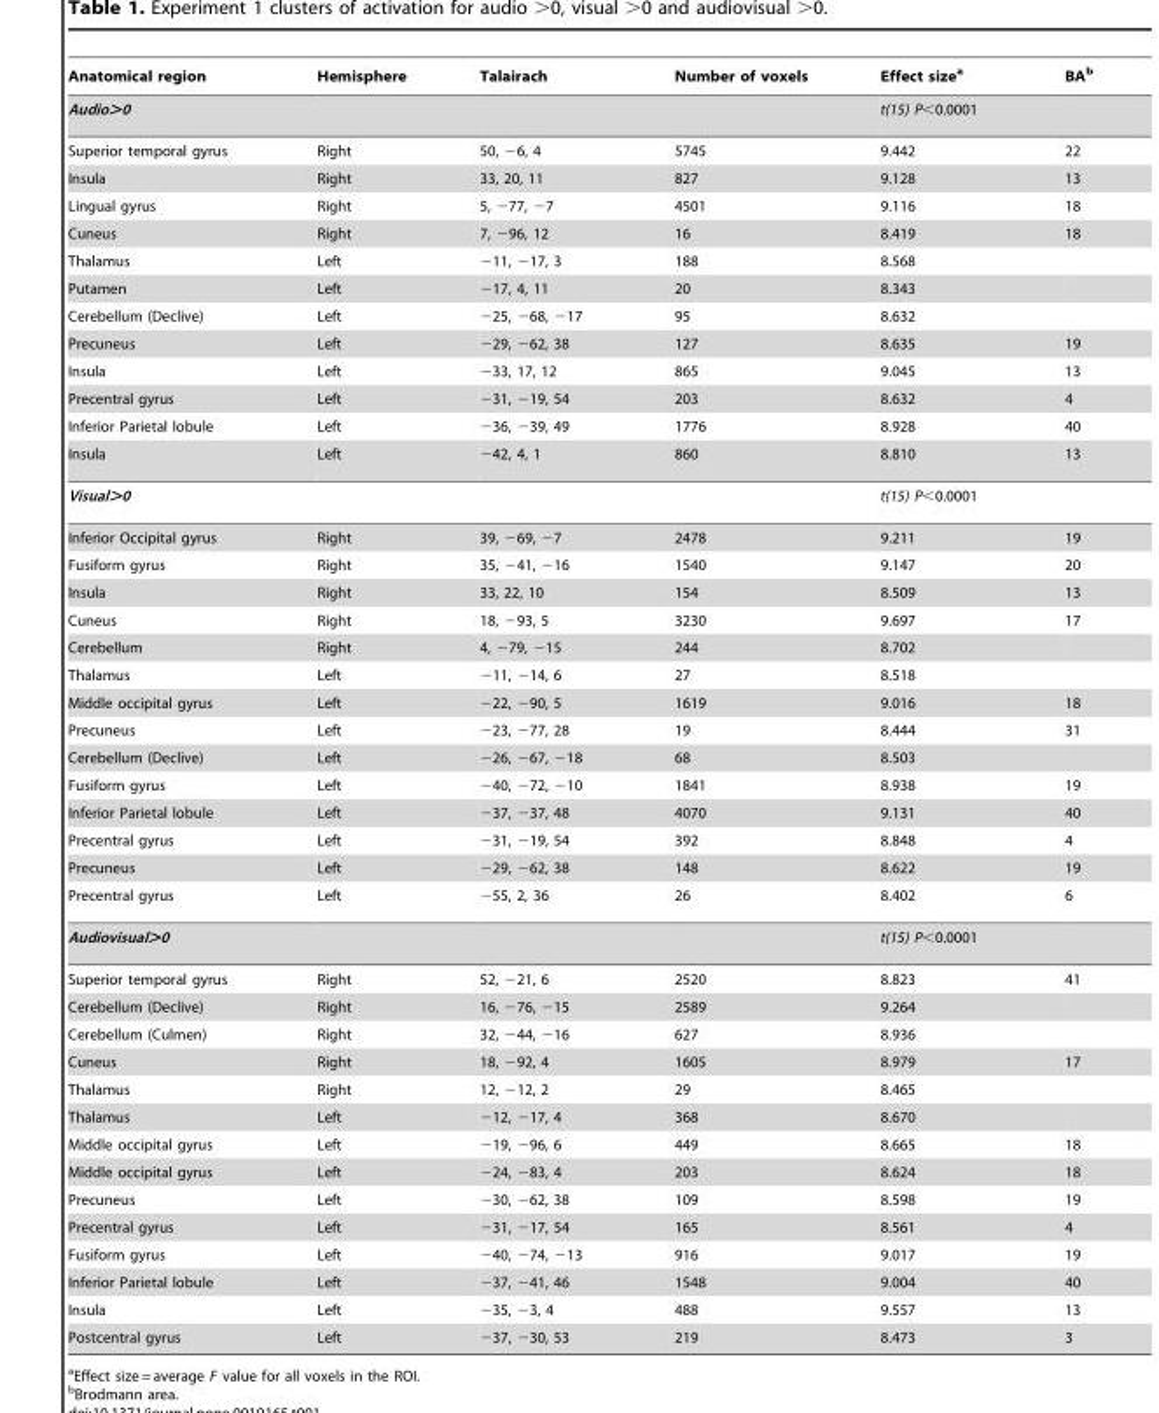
<table><thead><tr><td>Anatomical region</td><td>Hemisphere</td><td>Talairach</td><td>Number of voxels</td><td>Effect size<sup>a</sup></td><td>BA<sup>b</sup></td></tr></thead><tbody><tr><td colspan="4">Audio&gt;0</td><td colspan="2">t(15) P&lt;0.0001</td></tr><tr><td>Superior temporal gyrus</td><td>Right</td><td>50, −6, 4</td><td>5745</td><td>9.442</td><td>22</td></tr><tr><td>Insula</td><td>Right</td><td>33, 20, 11</td><td>827</td><td>9.128</td><td>13</td></tr><tr><td>Lingual gyrus</td><td>Right</td><td>5, −77, −7</td><td>4501</td><td>9.116</td><td>18</td></tr><tr><td>Cuneus</td><td>Right</td><td>7, −96, 12</td><td>16</td><td>8.419</td><td>18</td></tr><tr><td>Thalamus</td><td>Left</td><td>−11, −17, 3</td><td>188</td><td>8.568</td><td></td></tr><tr><td>Putamen</td><td>Left</td><td>−17, 4, 11</td><td>20</td><td>8.343</td><td></td></tr><tr><td>Cerebellum (Declive)</td><td>Left</td><td>−25, −68, −17</td><td>95</td><td>8.632</td><td></td></tr><tr><td>Precuneus</td><td>Left</td><td>−29, −62, 38</td><td>127</td><td>8.635</td><td>19</td></tr><tr><td>Insula</td><td>Left</td><td>−33, 17, 12</td><td>865</td><td>9.045</td><td>13</td></tr><tr><td>Precentral gyrus</td><td>Left</td><td>−31, −19, 54</td><td>203</td><td>8.632</td><td>4</td></tr><tr><td>Inferior Parietal lobule</td><td>Left</td><td>−36, −39, 49</td><td>1776</td><td>8.928</td><td>40</td></tr><tr><td>Insula</td><td>Left</td><td>−42, 4, 1</td><td>860</td><td>8.810</td><td>13</td></tr><tr><td colspan="4">Visual&gt;0</td><td colspan="2">t(15) P&lt;0.0001</td></tr><tr><td>Inferior Occipital gyrus</td><td>Right</td><td>39, −69, −7</td><td>2478</td><td>9.211</td><td>19</td></tr><tr><td>Fusiform gyrus</td><td>Right</td><td>35, −41, −16</td><td>1540</td><td>9.147</td><td>20</td></tr><tr><td>Insula</td><td>Right</td><td>33, 22, 10</td><td>154</td><td>8.509</td><td>13</td></tr><tr><td>Cuneus</td><td>Right</td><td>18, −93, 5</td><td>3230</td><td>9.697</td><td>17</td></tr><tr><td>Cerebellum</td><td>Right</td><td>4, −79, −15</td><td>244</td><td>8.702</td><td></td></tr><tr><td>Thalamus</td><td>Left</td><td>−11, −14, 6</td><td>27</td><td>8.518</td><td></td></tr><tr><td>Middle occipital gyrus</td><td>Left</td><td>−22, −90, 5</td><td>1619</td><td>9.016</td><td>18</td></tr><tr><td>Precuneus</td><td>Left</td><td>−23, −77, 28</td><td>19</td><td>8.444</td><td>31</td></tr><tr><td>Cerebellum (Declive)</td><td>Left</td><td>−26, −67, −18</td><td>68</td><td>8.503</td><td></td></tr><tr><td>Fusiform gyrus</td><td>Left</td><td>−40, −72, −10</td><td>1841</td><td>8.938</td><td>19</td></tr><tr><td>Inferior Parietal lobule</td><td>Left</td><td>−37, −37, 48</td><td>4070</td><td>9.131</td><td>40</td></tr><tr><td>Precentral gyrus</td><td>Left</td><td>−31, −19, 54</td><td>392</td><td>8.848</td><td>4</td></tr><tr><td>Precuneus</td><td>Left</td><td>−29, −62, 38</td><td>148</td><td>8.622</td><td>19</td></tr><tr><td>Precentral gyrus</td><td>Left</td><td>−55, 2, 36</td><td>26</td><td>8.402</td><td>6</td></tr><tr><td colspan="4">Audiovisual&gt;0</td><td colspan="2">t(15) P&lt;0.0001</td></tr><tr><td>Superior temporal gyrus</td><td>Right</td><td>52, −21, 6</td><td>2520</td><td>8.823</td><td>41</td></tr><tr><td>Cerebellum (Declive)</td><td>Right</td><td>16, −76, −15</td><td>2589</td><td>9.264</td><td></td></tr><tr><td>Cerebellum (Culmen)</td><td>Right</td><td>32, −44, −16</td><td>627</td><td>8.936</td><td></td></tr><tr><td>Cuneus</td><td>Right</td><td>18, −92, 4</td><td>1605</td><td>8.979</td><td>17</td></tr><tr><td>Thalamus</td><td>Right</td><td>12, −12, 2</td><td>29</td><td>8.465</td><td></td></tr><tr><td>Thalamus</td><td>Left</td><td>−12, −17, 4</td><td>368</td><td>8.670</td><td></td></tr><tr><td>Middle occipital gyrus</td><td>Left</td><td>−19, −96, 6</td><td>449</td><td>8.665</td><td>18</td></tr><tr><td>Middle occipital gyrus</td><td>Left</td><td>−24, −83, 4</td><td>203</td><td>8.624</td><td>18</td></tr><tr><td>Precuneus</td><td>Left</td><td>−30, −62, 38</td><td>109</td><td>8.598</td><td>19</td></tr><tr><td>Precentral gyrus</td><td>Left</td><td>−31, −17, 54</td><td>165</td><td>8.561</td><td>4</td></tr><tr><td>Fusiform gyrus</td><td>Left</td><td>−40, −74, −13</td><td>916</td><td>9.017</td><td>19</td></tr><tr><td>Inferior Parietal lobule</td><td>Left</td><td>−37, −41, 46</td><td>1548</td><td>9.004</td><td>40</td></tr><tr><td>Insula</td><td>Left</td><td>−35, −3, 4</td><td>488</td><td>9.557</td><td>13</td></tr><tr><td>Postcentral gyrus</td><td>Left</td><td>−37, −30, 53</td><td>219</td><td>8.473</td><td>3</td></tr></tbody></table>